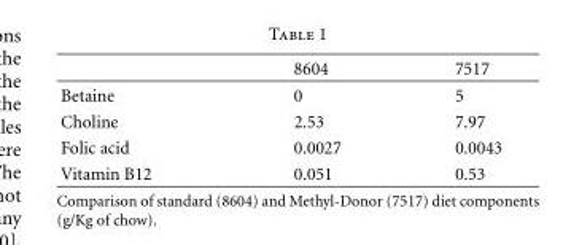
<table><thead><tr><td></td><td>8604</td><td>7517</td></tr></thead><tbody><tr><td>Betaine</td><td>0</td><td>5</td></tr><tr><td>Choline</td><td>2.53</td><td>7.97</td></tr><tr><td>Folic acid</td><td>0.0027</td><td>0.0043</td></tr><tr><td>Vitamin B12</td><td>0.051</td><td>0.53</td></tr></tbody></table>